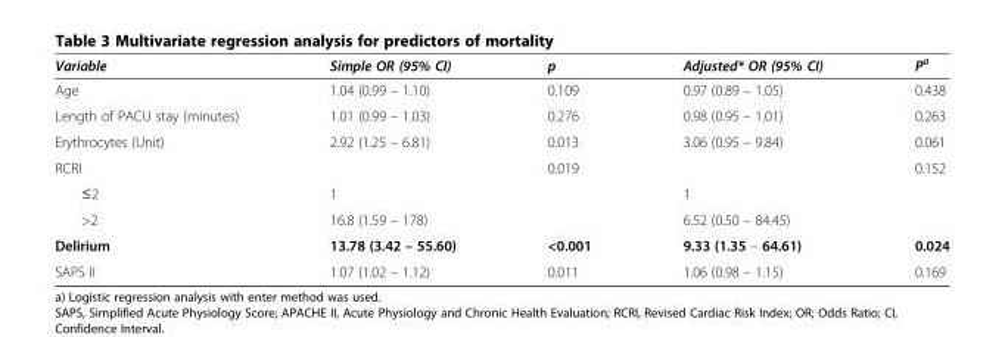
<table><thead><tr><td>Variable</td><td>Simple OR (95% CI)</td><td>p</td><td>Adjusted* OR (95% CI)</td><td>P<sup>a</sup></td></tr></thead><tbody><tr><td>Age</td><td>1.04 (0.99 – 1.10)</td><td>0.109</td><td>0.97 (0.89 – 1.05)</td><td>0.438</td></tr><tr><td>Length of PACU stay (minutes)</td><td>1.01 (0.99 – 1.03)</td><td>0.276</td><td>0.98 (0.95 – 1.01)</td><td>0.263</td></tr><tr><td>Erythrocytes (Unit)</td><td>2.92 (1.25 – 6.81)</td><td>0.013</td><td>3.06 (0.95 – 9.84)</td><td>0.061</td></tr><tr><td>RCRI</td><td></td><td>0.019</td><td></td><td>0.152</td></tr><tr><td>≤2</td><td>1</td><td></td><td>1</td><td></td></tr><tr><td>&gt;2</td><td>16.8 (1.59 – 178)</td><td></td><td>6.52 (0.50 – 84.45)</td><td></td></tr><tr><td>Delirium</td><td>13.78 (3.42 – 55.60)</td><td>&lt;0.001</td><td>9.33 (1.35 – 64.61)</td><td>0.024</td></tr><tr><td>SAPS II</td><td>1.07 (1.02 – 1.12)</td><td>0.011</td><td>1.06 (0.98 – 1.15)</td><td>0.169</td></tr></tbody></table>